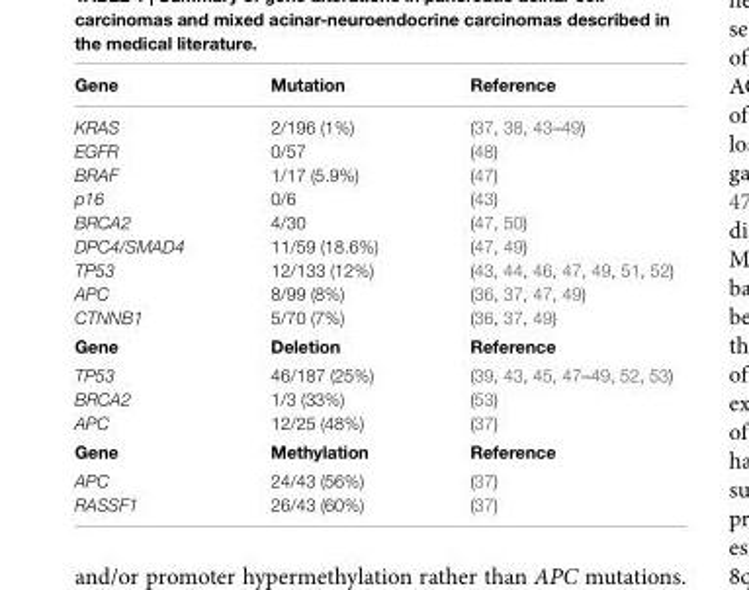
<table><thead><tr><td>Gene</td><td>Mutation</td><td>Reference</td></tr></thead><tbody><tr><td>KRAS</td><td>2/196 (1%)</td><td>(37, 38, 43–49)</td></tr><tr><td>EGFR</td><td>0/57</td><td>(48)</td></tr><tr><td>BRAF</td><td>1/17 (5.9%)</td><td>(47)</td></tr><tr><td>p16</td><td>0/6</td><td>(43)</td></tr><tr><td>BRCA2</td><td>4/30</td><td>(47, 50)</td></tr><tr><td>DPC4/SMAD4</td><td>11/59 (18.6%)</td><td>(47, 49)</td></tr><tr><td>TP53</td><td>12/133 (12%)</td><td>(43, 44, 46, 47, 49, 51, 52)</td></tr><tr><td>APC</td><td>8/99 (8%)</td><td>(36, 37, 47, 49)</td></tr><tr><td>CTNNB1</td><td>5/70 (7%)</td><td>(36, 37, 49)</td></tr><tr><td>Gene</td><td>deletion</td><td>Reference</td></tr><tr><td>TP53</td><td>46/187 (25%)</td><td>(39, 43, 45, 47–49, 52, 53)</td></tr><tr><td>BRCA2</td><td>1/3 (33%)</td><td>(53)</td></tr><tr><td>APC</td><td>12/25 (48%)</td><td>(37)</td></tr><tr><td>Gene</td><td>Methylation</td><td>Reference</td></tr><tr><td>APC</td><td>24/43 (56%)</td><td>(37)</td></tr><tr><td>RASSF1</td><td>26/43 (60%)</td><td>(37)</td></tr></tbody></table>